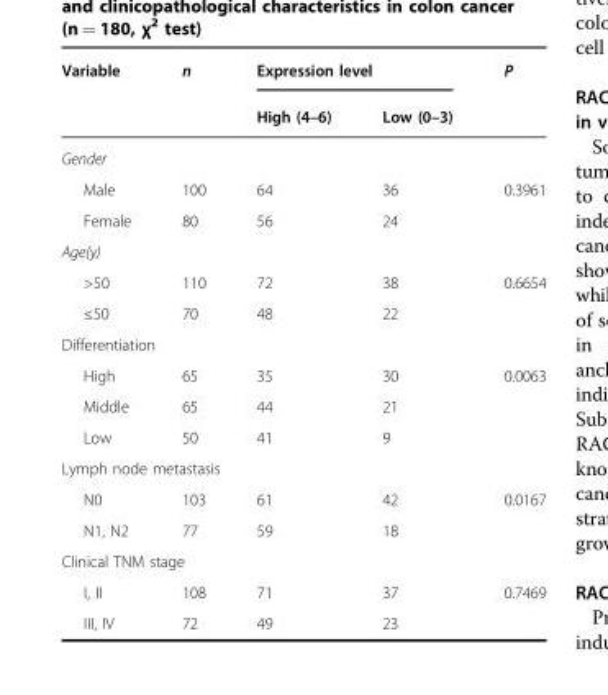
<table><thead><tr><td rowspan="2">Variable</td><td rowspan="2">n</td><td colspan="2">Expression level</td><td rowspan="2">P</td></tr><tr><td>High (4–6)</td><td>Low (0–3)</td></tr></thead><tbody><tr><td colspan="5">Gender</td></tr><tr><td>Male</td><td>100</td><td>64</td><td>36</td><td>0.3961</td></tr><tr><td>Female</td><td>80</td><td>56</td><td>24</td><td></td></tr><tr><td colspan="5">Age(y)</td></tr><tr><td>&gt;50</td><td>110</td><td>72</td><td>38</td><td>0.6654</td></tr><tr><td>≤50</td><td>70</td><td>48</td><td>22</td><td></td></tr><tr><td colspan="5">Differentiation</td></tr><tr><td>High</td><td>65</td><td>35</td><td>30</td><td>0.0063</td></tr><tr><td>Middle</td><td>65</td><td>44</td><td>21</td><td></td></tr><tr><td>Low</td><td>50</td><td>41</td><td>9</td><td></td></tr><tr><td colspan="5">Lymph node metastasis</td></tr><tr><td>N0</td><td>103</td><td>61</td><td>42</td><td>0.0167</td></tr><tr><td>N1, N2</td><td>77</td><td>59</td><td>18</td><td></td></tr><tr><td colspan="5">Clinical TNM stage</td></tr><tr><td>I, II</td><td>108</td><td>71</td><td>37</td><td>0.7469</td></tr><tr><td>III, IV</td><td>72</td><td>49</td><td>23</td><td></td></tr></tbody></table>